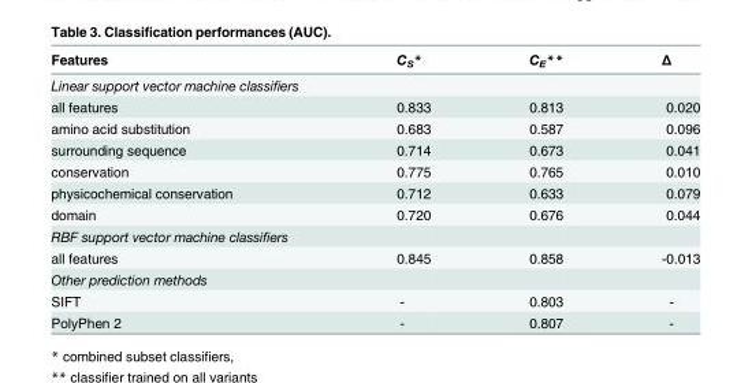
<table><thead><tr><td>Features</td><td>C<sub>S</sub>*</td><td>C<sub>E</sub>**</td><td>Δ</td></tr></thead><tbody><tr><td colspan="4">Linear support vector machine classifiers</td></tr><tr><td>all features</td><td>0.833</td><td>0.813</td><td>0.020</td></tr><tr><td>amino acid substitution</td><td>0.683</td><td>0.587</td><td>0.096</td></tr><tr><td>surrounding sequence</td><td>0.714</td><td>0.673</td><td>0.041</td></tr><tr><td>conservation</td><td>0.775</td><td>0.765</td><td>0.010</td></tr><tr><td>physicochemical conservation</td><td>0.712</td><td>0.633</td><td>0.079</td></tr><tr><td>domain</td><td>0.720</td><td>0.676</td><td>0.044</td></tr><tr><td colspan="4">RBF support vector machine classifiers</td></tr><tr><td>all features</td><td>0.845</td><td>0.858</td><td>-0.013</td></tr><tr><td colspan="4">Other prediction methods</td></tr><tr><td>SIFT</td><td>-</td><td>0.803</td><td>-</td></tr><tr><td>PolyPhen 2</td><td>-</td><td>0.807</td><td>-</td></tr></tbody></table>